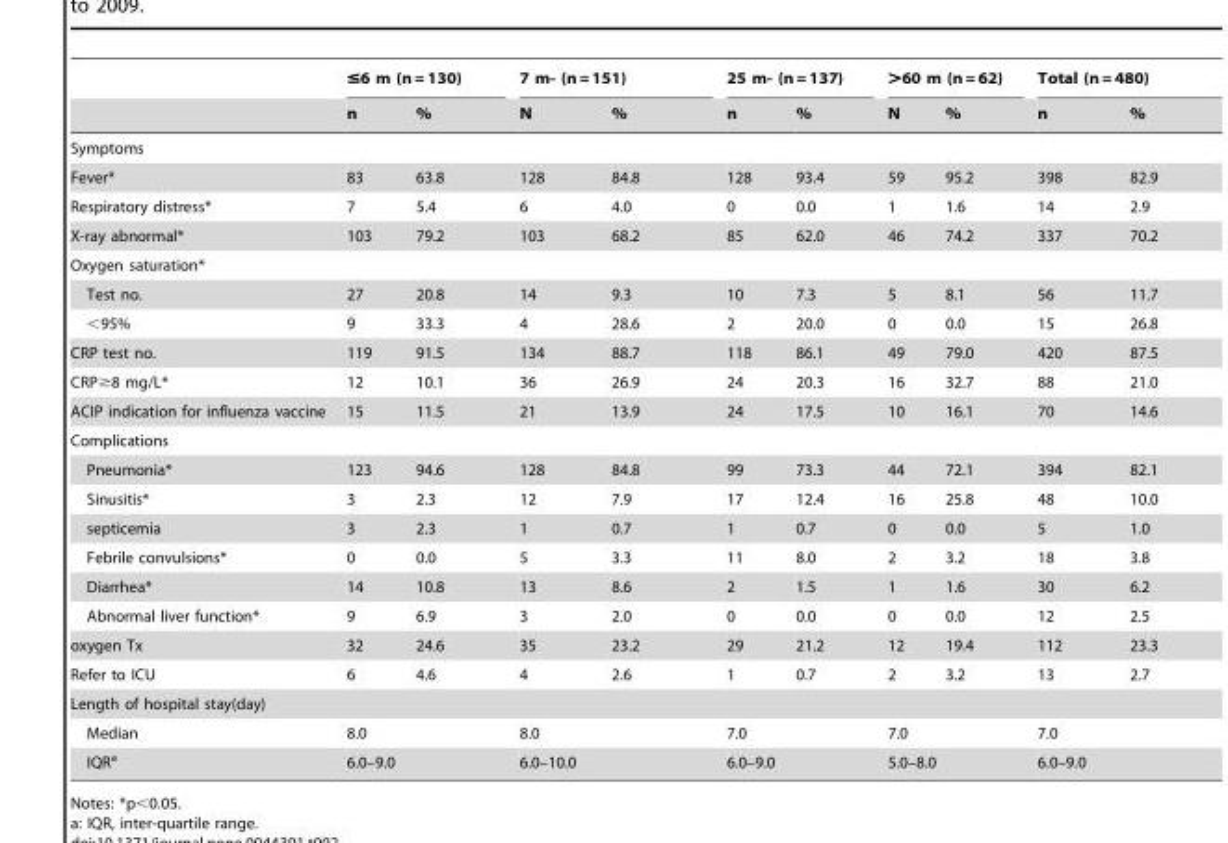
<table><thead><tr><td rowspan="2"></td><td colspan="2">≤6 m (n = 130)</td><td colspan="2">7 m- (n = 151)</td><td colspan="2">25 m- (n = 137)</td><td colspan="2">&gt;60 m (n = 62)</td><td colspan="2">Total (n = 480)</td></tr><tr><td>n</td><td>%</td><td>N</td><td>%</td><td>n</td><td>%</td><td>N</td><td>%</td><td>n</td><td>%</td></tr></thead><tbody><tr><td colspan="11">Symptoms</td></tr><tr><td>Fever*</td><td>83</td><td>63.8</td><td>128</td><td>84.8</td><td>128</td><td>93.4</td><td>59</td><td>95.2</td><td>398</td><td>82.9</td></tr><tr><td>Respiratory distress*</td><td>7</td><td>5.4</td><td>6</td><td>4.0</td><td>0</td><td>0.0</td><td>1</td><td>1.6</td><td>14</td><td>2.9</td></tr><tr><td>X-ray abnormal*</td><td>103</td><td>79.2</td><td>103</td><td>68.2</td><td>85</td><td>62.0</td><td>46</td><td>74.2</td><td>337</td><td>70.2</td></tr><tr><td colspan="11">Oxygen saturation*</td></tr><tr><td>Test no.</td><td>27</td><td>20.8</td><td>14</td><td>9.3</td><td>10</td><td>7.3</td><td>5</td><td>8.1</td><td>56</td><td>11.7</td></tr><tr><td>&lt;95%</td><td>9</td><td>33.3</td><td>4</td><td>28.6</td><td>2</td><td>20.0</td><td>0</td><td>0.0</td><td>15</td><td>26.8</td></tr><tr><td>CRP test no.</td><td>119</td><td>91.5</td><td>134</td><td>88.7</td><td>118</td><td>86.1</td><td>49</td><td>79.0</td><td>420</td><td>87.5</td></tr><tr><td>CRP≥8 mg/L*</td><td>12</td><td>10.1</td><td>36</td><td>26.9</td><td>24</td><td>20.3</td><td>16</td><td>32.7</td><td>88</td><td>21.0</td></tr><tr><td>ACIP indication for influenza vaccine</td><td>15</td><td>11.5</td><td>21</td><td>13.9</td><td>24</td><td>17.5</td><td>10</td><td>16.1</td><td>70</td><td>14.6</td></tr><tr><td colspan="11">Complications</td></tr><tr><td>Pneumonia*</td><td>123</td><td>94.6</td><td>128</td><td>84.8</td><td>99</td><td>73.3</td><td>44</td><td>72.1</td><td>394</td><td>82.1</td></tr><tr><td>Sinusitis*</td><td>3</td><td>2.3</td><td>12</td><td>7.9</td><td>17</td><td>12.4</td><td>16</td><td>25.8</td><td>48</td><td>10.0</td></tr><tr><td>septicemia</td><td>3</td><td>2.3</td><td>1</td><td>0.7</td><td>1</td><td>0.7</td><td>0</td><td>0.0</td><td>5</td><td>1.0</td></tr><tr><td>Febrile convulsions*</td><td>0</td><td>0.0</td><td>5</td><td>3.3</td><td>11</td><td>8.0</td><td>2</td><td>3.2</td><td>18</td><td>3.8</td></tr><tr><td>Diarrhea*</td><td>14</td><td>10.8</td><td>13</td><td>8.6</td><td>2</td><td>1.5</td><td>1</td><td>1.6</td><td>30</td><td>6.2</td></tr><tr><td>Abnormal liver function*</td><td>9</td><td>6.9</td><td>3</td><td>2.0</td><td>0</td><td>0.0</td><td>0</td><td>0.0</td><td>12</td><td>2.5</td></tr><tr><td>oxygen Tx</td><td>32</td><td>24.6</td><td>35</td><td>23.2</td><td>29</td><td>21.2</td><td>12</td><td>19.4</td><td>112</td><td>23.3</td></tr><tr><td>Refer to ICU</td><td>6</td><td>4.6</td><td>4</td><td>2.6</td><td>1</td><td>0.7</td><td>2</td><td>3.2</td><td>13</td><td>2.7</td></tr><tr><td colspan="11">Length of hospital stay(day)</td></tr><tr><td>Median</td><td colspan="2">8.0</td><td colspan="2">8.0</td><td colspan="2">7.0</td><td colspan="2">7.0</td><td colspan="2">7.0</td></tr><tr><td>IQR<sup>a</sup></td><td colspan="2">6.0–9.0</td><td colspan="2">6.0–10.0</td><td colspan="2">6.0–9.0</td><td colspan="2">5.0–8.0</td><td colspan="2">6.0–9.0</td></tr></tbody></table>